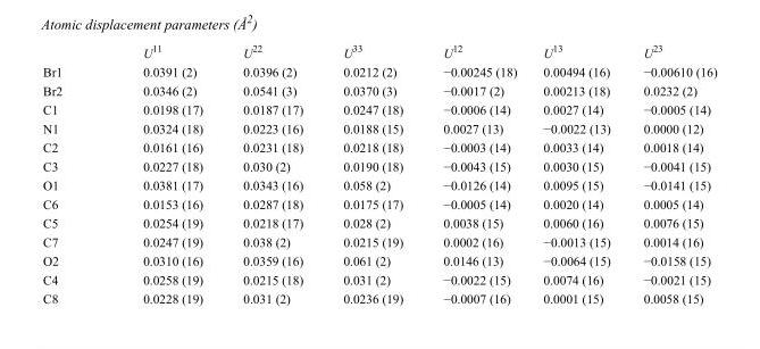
<table><thead><tr><td></td><td>U<sup>11</sup></td><td>U<sup>22</sup></td><td>U<sup>33</sup></td><td>U<sup>12</sup></td><td>U<sup>13</sup></td><td>U<sup>23</sup></td></tr></thead><tbody><tr><td>Br1</td><td>0.0391 (2)</td><td>0.0396 (2)</td><td>0.0212 (2)</td><td>−0.00245 (18)</td><td>0.00494 (16)</td><td>−0.00610 (16)</td></tr><tr><td>Br2</td><td>0.0346 (2)</td><td>0.0541 (3)</td><td>0.0370 (3)</td><td>−0.0017 (2)</td><td>0.00213 (18)</td><td>0.0232 (2)</td></tr><tr><td>C1</td><td>0.0198 (17)</td><td>0.0187 (17)</td><td>0.0247 (18)</td><td>−0.0006 (14)</td><td>0.0027 (14)</td><td>−0.0005 (14)</td></tr><tr><td>N1</td><td>0.0324 (18)</td><td>0.0223 (16)</td><td>0.0188 (15)</td><td>0.0027 (13)</td><td>−0.0022 (13)</td><td>0.0000 (12)</td></tr><tr><td>C2</td><td>0.0161 (16)</td><td>0.0231 (18)</td><td>0.0218 (18)</td><td>−0.0003 (14)</td><td>0.0033 (14)</td><td>0.0018 (14)</td></tr><tr><td>C3</td><td>0.0227 (18)</td><td>0.030 (2)</td><td>0.0190 (18)</td><td>−0.0043 (15)</td><td>0.0030 (15)</td><td>−0.0041 (15)</td></tr><tr><td>O1</td><td>0.0381 (17)</td><td>0.0343 (16)</td><td>0.058 (2)</td><td>−0.0126 (14)</td><td>0.0095 (15)</td><td>−0.0141 (15)</td></tr><tr><td>C6</td><td>0.0153 (16)</td><td>0.0287 (18)</td><td>0.0175 (17)</td><td>−0.0005 (14)</td><td>0.0020 (14)</td><td>0.0005 (14)</td></tr><tr><td>C5</td><td>0.0254 (19)</td><td>0.0218 (17)</td><td>0.028 (2)</td><td>0.0038 (15)</td><td>0.0060 (16)</td><td>0.0076 (15)</td></tr><tr><td>C7</td><td>0.0247 (19)</td><td>0.038 (2)</td><td>0.0215 (19)</td><td>0.0002 (16)</td><td>−0.0013 (15)</td><td>0.0014 (16)</td></tr><tr><td>O2</td><td>0.0310 (16)</td><td>0.0359 (16)</td><td>0.061 (2)</td><td>0.0146 (13)</td><td>−0.0064 (15)</td><td>−0.0158 (15)</td></tr><tr><td>C4</td><td>0.0258 (19)</td><td>0.0215 (18)</td><td>0.031 (2)</td><td>−0.0022 (15)</td><td>0.0074 (16)</td><td>−0.0021 (15)</td></tr><tr><td>C8</td><td>0.0228 (19)</td><td>0.031 (2)</td><td>0.0236 (19)</td><td>−0.0007 (16)</td><td>0.0001 (15)</td><td>0.0058 (15)</td></tr></tbody></table>